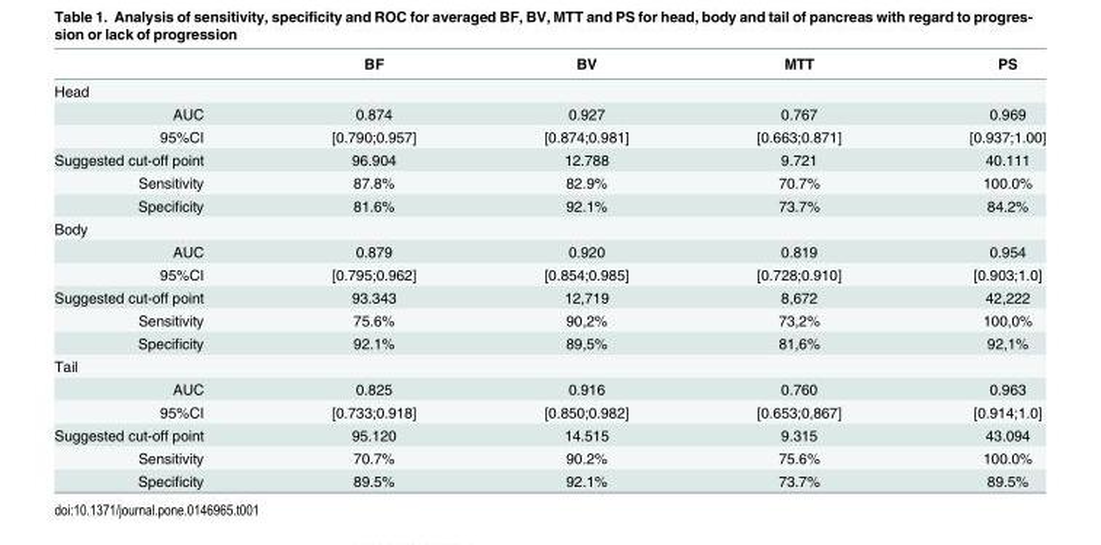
<table><thead><tr><td></td><td>BF</td><td>BV</td><td>MTT</td><td>PS</td></tr></thead><tbody><tr><td colspan="5">Head</td></tr><tr><td>AUC</td><td>0.874</td><td>0.927</td><td>0.767</td><td>0.969</td></tr><tr><td>95%CI</td><td>[0.790;0.957]</td><td>[0.874;0.981]</td><td>[0.663;0.871]</td><td>[0.937;1.00]</td></tr><tr><td>Suggested cut-off point</td><td>96.904</td><td>12.788</td><td>9.721</td><td>40.111</td></tr><tr><td>Sensitivity</td><td>87.8%</td><td>82.9%</td><td>70.7%</td><td>100.0%</td></tr><tr><td>Specificity</td><td>81.6%</td><td>92.1%</td><td>73.7%</td><td>84.2%</td></tr><tr><td colspan="5">Body</td></tr><tr><td>AUC</td><td>0.879</td><td>0.920</td><td>0.819</td><td>0.954</td></tr><tr><td>95%CI</td><td>[0.795;0.962]</td><td>[0.854;0.985]</td><td>[0.728;0.910]</td><td>[0.903;1.0]</td></tr><tr><td>Suggested cut-off point</td><td>93.343</td><td>12,719</td><td>8,672</td><td>42,222</td></tr><tr><td>Sensitivity</td><td>75.6%</td><td>90,2%</td><td>73,2%</td><td>100,0%</td></tr><tr><td>Specificity</td><td>92.1%</td><td>89,5%</td><td>81,6%</td><td>92,1%</td></tr><tr><td colspan="5">Tail</td></tr><tr><td>AUC</td><td>0.825</td><td>0.916</td><td>0.760</td><td>0.963</td></tr><tr><td>95%CI</td><td>[0.733;0.918]</td><td>[0.850;0.982]</td><td>[0.653;0,867]</td><td>[0.914;1.0]</td></tr><tr><td>Suggested cut-off point</td><td>95.120</td><td>14.515</td><td>9.315</td><td>43.094</td></tr><tr><td>Sensitivity</td><td>70.7%</td><td>90.2%</td><td>75.6%</td><td>100.0%</td></tr><tr><td>Specificity</td><td>89.5%</td><td>92.1%</td><td>73.7%</td><td>89.5%</td></tr></tbody></table>